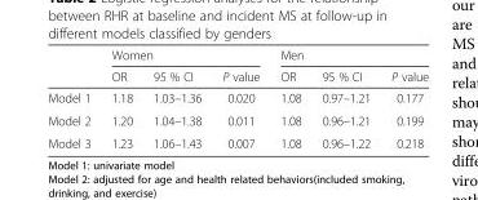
<table><thead><tr><td rowspan="2"></td><td colspan="3">Women</td><td colspan="3">Men</td></tr><tr><td>OR</td><td>95 % CI</td><td>P value</td><td>OR</td><td>95 % CI</td><td>P value</td></tr></thead><tbody><tr><td>Model 1</td><td>1.18</td><td>1.03–1.36</td><td>0.020</td><td>1.08</td><td>0.97–1.21</td><td>0.177</td></tr><tr><td>Model 2</td><td>1.20</td><td>1.04–1.38</td><td>0.011</td><td>1.08</td><td>0.96–1.21</td><td>0.199</td></tr><tr><td>Model 3</td><td>1.23</td><td>1.06–1.43</td><td>0.007</td><td>1.08</td><td>0.96–1.22</td><td>0.218</td></tr></tbody></table>